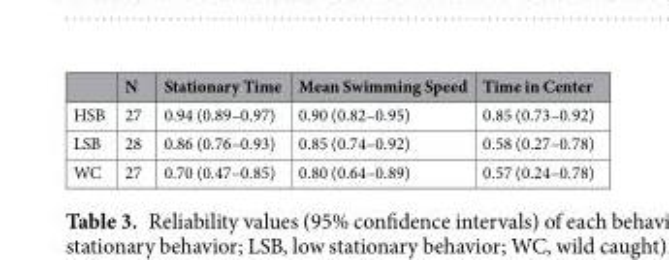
<table><thead><tr><td></td><td>N</td><td>Stationary Time</td><td>Mean Swimming Speed</td><td>Time in Center</td></tr></thead><tbody><tr><td>HSB</td><td>27</td><td>0.94 (0.89–0.97)</td><td>0.90 (0.82–0.95)</td><td>0.85 (0.73–0.92)</td></tr><tr><td>LSB</td><td>28</td><td>0.86 (0.76–0.93)</td><td>0.85 (0.74–0.92)</td><td>0.58 (0.27–0.78)</td></tr><tr><td>WC</td><td>27</td><td>0.70 (0.47–0.85)</td><td>0.80 (0.64–0.89)</td><td>0.57 (0.24–0.78)</td></tr></tbody></table>